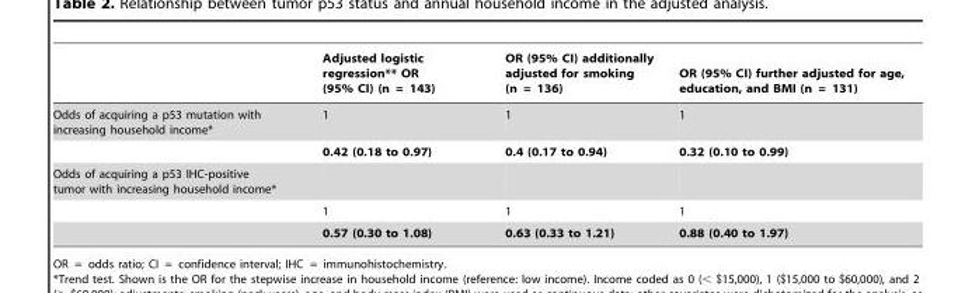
<table><thead><tr><td></td><td>Adjusted logistic regression** OR (95% CI) (n = 143)</td><td>OR (95% CI) additionally adjusted for smoking (n = 136)</td><td>OR (95% CI) further adjusted for age, education, and BMI (n = 131)</td></tr></thead><tbody><tr><td rowspan="2">Odds of acquiring a p53 mutation with increasing household income*</td><td>1</td><td>1</td><td>1</td></tr><tr><td>0.42 (0.18 to 0.97)</td><td>0.4 (0.17 to 0.94)</td><td>0.32 (0.10 to 0.99)</td></tr><tr><td colspan="4">Odds of acquiring a p53 IHC-positive tumor with increasing household income*</td></tr><tr><td></td><td>1</td><td>1</td><td>1</td></tr><tr><td></td><td>0.57 (0.30 to 1.08)</td><td>0.63 (0.33 to 1.21)</td><td>0.88 (0.40 to 1.97)</td></tr></tbody></table>